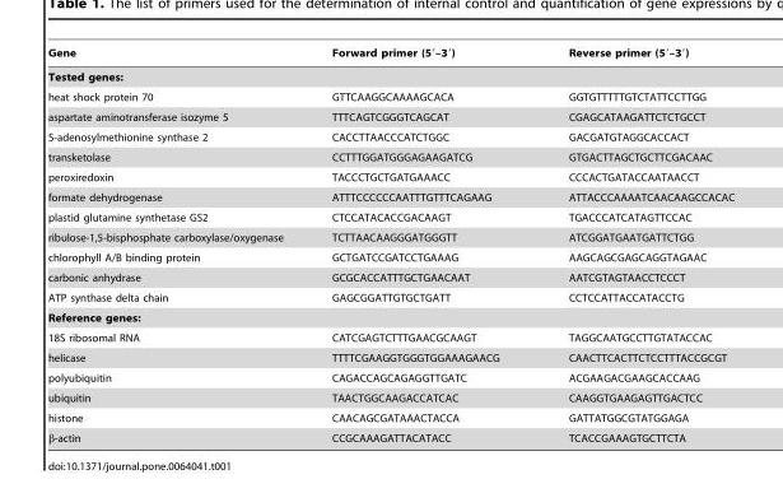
<table><thead><tr><td>Gene</td><td>Forward primer (5′–3′)</td><td>Reverse primer (5′–3′)</td></tr></thead><tbody><tr><td colspan="3">Tested genes:</td></tr><tr><td>heat shock protein 70</td><td>GTTCAAGGCAAAAGCACA</td><td>GGTGTTTTTGTCTATTCCTTGG</td></tr><tr><td>aspartate aminotransferase isozyme 5</td><td>TTTCAGTCGGGTCAGCAT</td><td>CGAGCATAAGATTCTCTGCCT</td></tr><tr><td>S-adenosylmethionine synthase 2</td><td>CACCTTAACCCATCTGGC</td><td>GACGATGTAGGCACCACT</td></tr><tr><td>transketolase</td><td>CCTTTGGATGGGAGAAGATCG</td><td>GTGACTTAGCTGCTTCGACAAC</td></tr><tr><td>peroxiredoxin</td><td>TACCCTGCTGATGAAACC</td><td>CCCACTGATACCAATAACCT</td></tr><tr><td>formate dehydrogenase</td><td>ATTTCCCCCCAATTTGTTTCAGAAG</td><td>ATTACCCAAAATCAACAAGCCACAC</td></tr><tr><td>plastid glutamine synthetase GS2</td><td>CTCCATACACCGACAAGT</td><td>TGACCCATCATAGTTCCAC</td></tr><tr><td>ribulose-1,5-bisphosphate carboxylase/oxygenase</td><td>TCTTAACAAGGGATGGGTT</td><td>ATCGGATGAATGATTCTGG</td></tr><tr><td>chlorophyll A/B binding protein</td><td>GCTGATCCGATCCTGAAAG</td><td>AAGCAGCGAGCAGGTAGAAC</td></tr><tr><td>carbonic anhydrase</td><td>GCGCACCATTTGCTGAACAAT</td><td>AATCGTAGTAACCTCCCT</td></tr><tr><td>ATP synthase delta chain</td><td>GAGCGGATTGTGCTGATT</td><td>CCTCCATTACCATACCTG</td></tr><tr><td colspan="3">Reference genes:</td></tr><tr><td>18S ribosomal RNA</td><td>CATCGAGTCTTTGAACGCAAGT</td><td>TAGGCAATGCCTTGTATACCAC</td></tr><tr><td>helicase</td><td>TTTTCGAAGGTGGGTGGAAAGAACG</td><td>CAACTTCACTTCTCCTTTACCGCGT</td></tr><tr><td>polyubiquitin</td><td>CAGACCAGCAGAGGTTGATC</td><td>ACGAAGACGAAGCACCAAG</td></tr><tr><td>ubiquitin</td><td>TAACTGGCAAGACCATCAC</td><td>CAAGGTGAAGAGTTGACTCC</td></tr><tr><td>histone</td><td>CAACAGCGATAAACTACCA</td><td>GATTATGGCGTATGGAGA</td></tr><tr><td>β-actin</td><td>CCGCAAAGATTACATACC</td><td>TCACCGAAAGTGCTTCTA</td></tr></tbody></table>